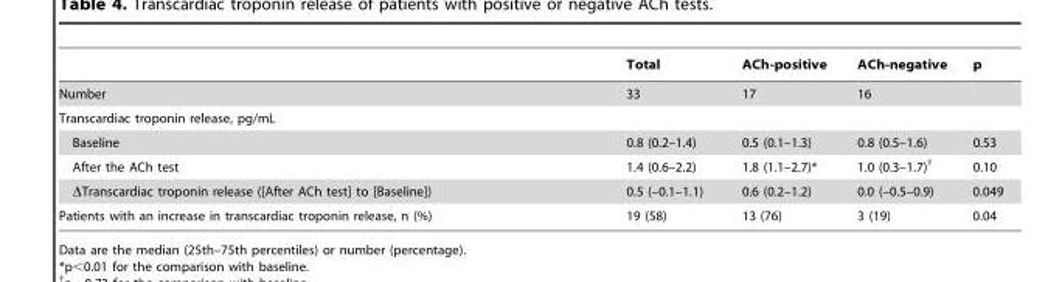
<table><thead><tr><td></td><td>Total</td><td>ACh-positive</td><td>ACh-negative</td><td>p</td></tr></thead><tbody><tr><td>Number</td><td>33</td><td>17</td><td>16</td><td></td></tr><tr><td colspan="5">Transcardiac troponin release, pg/mL</td></tr><tr><td>Baseline</td><td>0.8 (0.2–1.4)</td><td>0.5 (0.1–1.3)</td><td>0.8 (0.5–1.6)</td><td>0.53</td></tr><tr><td>After the ACh test</td><td>1.4 (0.6–2.2)</td><td>1.8 (1.1–2.7)*</td><td>1.0 (0.3–1.7)†</td><td>0.10</td></tr><tr><td>ΔTranscardiac troponin release ([After ACh test] to [Baseline])</td><td>0.5 (–0.1–1.1)</td><td>0.6 (0.2–1.2)</td><td>0.0 (–0.5–0.9)</td><td>0.049</td></tr><tr><td>Patients with an increase in transcardiac troponin release, n (%)</td><td>19 (58)</td><td>13 (76)</td><td>3 (19)</td><td>0.04</td></tr></tbody></table>